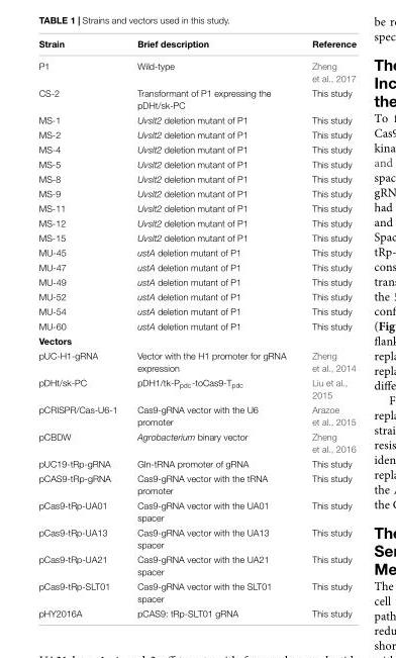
<table><thead><tr><td>Strain</td><td>Brief description</td><td>Reference</td></tr></thead><tbody><tr><td>P1</td><td>Wild-type</td><td>Zheng et al., 2017</td></tr><tr><td>CS-2</td><td>Transformant of P1 expressing the pDHt/sk-PC</td><td>This study</td></tr><tr><td>MS-1</td><td>Uvslt2 deletion mutant of P1</td><td>This study</td></tr><tr><td>MS-2</td><td>Uvslt2 deletion mutant of P1</td><td>This study</td></tr><tr><td>MS-4</td><td>Uvslt2 deletion mutant of P1</td><td>This study</td></tr><tr><td>MS-5</td><td>Uvslt2 deletion mutant of P1</td><td>This study</td></tr><tr><td>MS-8</td><td>Uvslt2 deletion mutant of P1</td><td>This study</td></tr><tr><td>MS-9</td><td>Uvslt2 deletion mutant of P1</td><td>This study</td></tr><tr><td>MS-11</td><td>Uvslt2 deletion mutant of P1</td><td>This study</td></tr><tr><td>MS-12</td><td>Uvslt2 deletion mutant of P1</td><td>This study</td></tr><tr><td>MS-15</td><td>Uvslt2 deletion mutant of P1</td><td>This study</td></tr><tr><td>MU-45</td><td>ustA deletion mutant of P1</td><td>This study</td></tr><tr><td>MU-47</td><td>ustA deletion mutant of P1</td><td>This study</td></tr><tr><td>MU-49</td><td>ustA deletion mutant of P1</td><td>This study</td></tr><tr><td>MU-52</td><td>ustA deletion mutant of P1</td><td>This study</td></tr><tr><td>MU-54</td><td>ustA deletion mutant of P1</td><td>This study</td></tr><tr><td>MU-60</td><td>ustA deletion mutant of P1</td><td>This study</td></tr><tr><td colspan="3">Vectors</td></tr><tr><td>pUC-H1-gRNA</td><td>Vector with the H1 promoter for gRNA expression</td><td>Zheng et al., 2014</td></tr><tr><td>pDHt/sk-PC</td><td>pDH1/tk-P<sub>pdc</sub>-toCas9-T<sub>pdc</sub></td><td>Liu et al., 2015</td></tr><tr><td>pCRISPR/Cas-U6-1</td><td>Cas9-gRNA vector with the U6 promoter</td><td>Arazoe et al., 2015</td></tr><tr><td>pCBDW</td><td>Agrobacterium binary vector</td><td>Zheng et al., 2016</td></tr><tr><td>pUC19-tRp-gRNA</td><td>Gln-tRNA promoter of gRNA</td><td>This study</td></tr><tr><td>pCAS9-tRp-gRNA</td><td>Cas9-gRNA vector with the tRNA promoter</td><td>This study</td></tr><tr><td>pCas9-tRp-UA01</td><td>Cas9-gRNA vector with the UA01 spacer</td><td>This study</td></tr><tr><td>pCas9-tRp-UA13</td><td>Cas9-gRNA vector with the UA13 spacer</td><td>This study</td></tr><tr><td>pCas9-tRp-UA21</td><td>Cas9-gRNA vector with the UA21 spacer</td><td>This study</td></tr><tr><td>pCas9-tRp-SLT01</td><td>Cas9-gRNA vector with the SLT01 spacer</td><td>This study</td></tr><tr><td>pHY2016A</td><td>pCAS9: tRp-SLT01 gRNA</td><td>This study</td></tr></tbody></table>